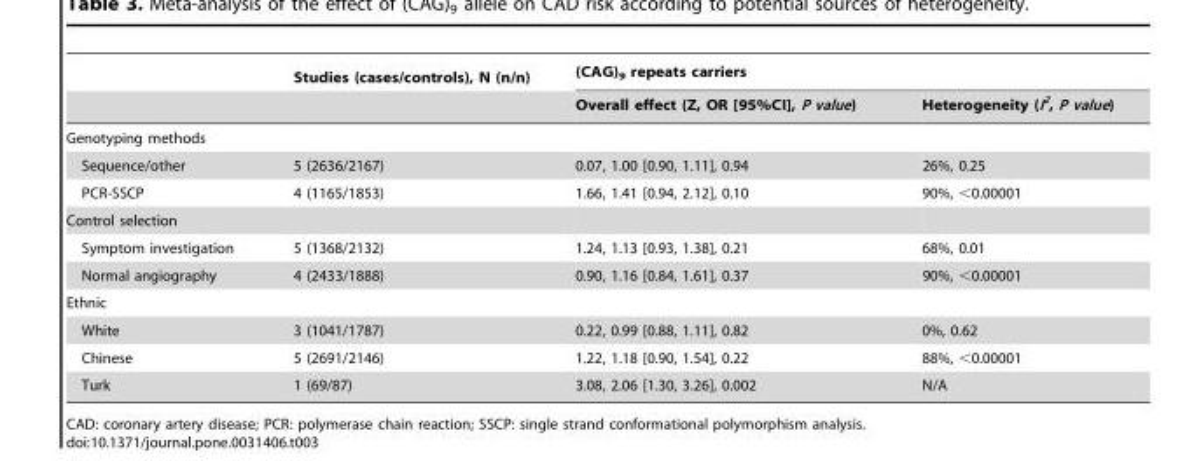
<table><thead><tr><td rowspan="2"></td><td rowspan="2">Studies (cases/controls), N (n/n)</td><td colspan="2">(CAG)<sub>9</sub> repeats carriers</td></tr><tr><td>Overall effect (Z, OR [95%CI], P value)</td><td>Heterogeneity (I<sup>2</sup>, P value)</td></tr></thead><tbody><tr><td colspan="4">Genotyping methods</td></tr><tr><td>Sequence/other</td><td>5 (2636/2167)</td><td>0.07, 1.00 [0.90, 1.11], 0.94</td><td>26%, 0.25</td></tr><tr><td>PCR-SSCP</td><td>4 (1165/1853)</td><td>1.66, 1.41 [0.94, 2.12], 0.10</td><td>90%, &lt;0.00001</td></tr><tr><td colspan="4">Control selection</td></tr><tr><td>Symptom investigation</td><td>5 (1368/2132)</td><td>1.24, 1.13 [0.93, 1.38], 0.21</td><td>68%, 0.01</td></tr><tr><td>Normal angiography</td><td>4 (2433/1888)</td><td>0.90, 1.16 [0.84, 1.61], 0.37</td><td>90%, &lt;0.00001</td></tr><tr><td colspan="4">Ethnic</td></tr><tr><td>White</td><td>3 (1041/1787)</td><td>0.22, 0.99 [0.88, 1.11], 0.82</td><td>0%, 0.62</td></tr><tr><td>Chinese</td><td>5 (2691/2146)</td><td>1.22, 1.18 [0.90, 1.54], 0.22</td><td>88%, &lt;0.00001</td></tr><tr><td>Turk</td><td>1 (69/87)</td><td>3.08, 2.06 [1.30, 3.26], 0.002</td><td>N/A</td></tr></tbody></table>